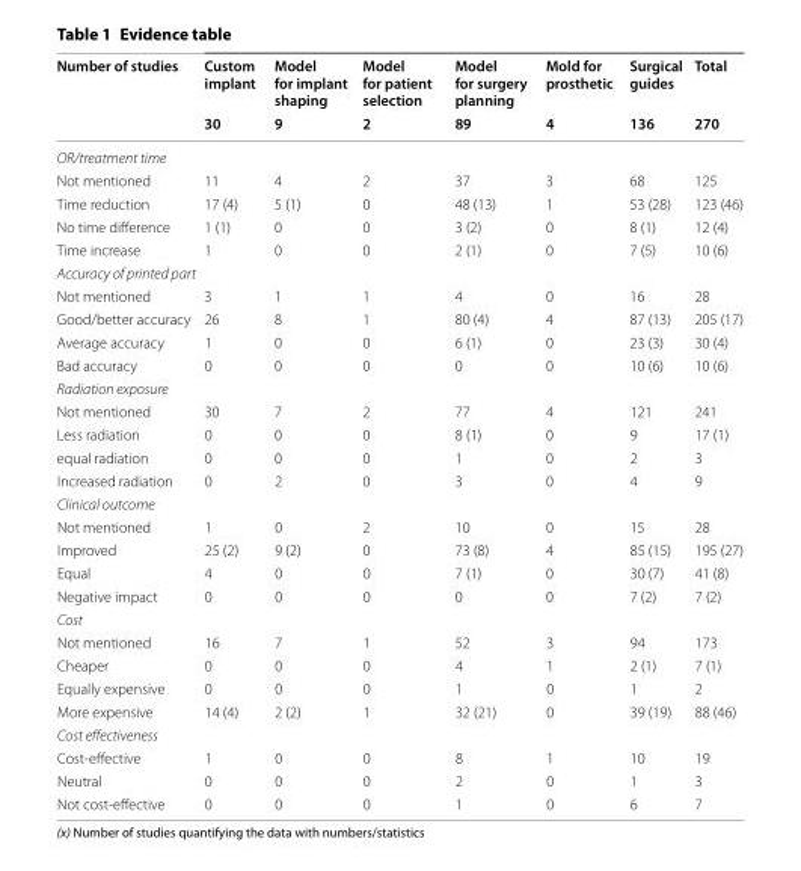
<table><thead><tr><td rowspan="2">Number of studies</td><td rowspan="2">Custom implant 30</td><td rowspan="2">Model for implant shaping 9</td><td rowspan="2">Model for patient selection 2</td><td rowspan="2">Model for surgery planning 89</td><td rowspan="2">Mold for prosthetic 4</td><td rowspan="2">Surgical guides 136</td><td rowspan="2">Total 270</td></tr><tr></tr></thead><tbody><tr><td colspan="8">OR/treatment time</td></tr><tr><td>Not mentioned</td><td>11</td><td>4</td><td>2</td><td>37</td><td>3</td><td>68</td><td>125</td></tr><tr><td>Time reduction</td><td>17 (4)</td><td>5 (1)</td><td>0</td><td>48 (13)</td><td>1</td><td>53 (28)</td><td>123 (46)</td></tr><tr><td>No time difference</td><td>1 (1)</td><td>0</td><td>0</td><td>3 (2)</td><td>0</td><td>8 (1)</td><td>12 (4)</td></tr><tr><td>Time increase</td><td>1</td><td>0</td><td>0</td><td>2 (1)</td><td>0</td><td>7 (5)</td><td>10 (6)</td></tr><tr><td colspan="8">Accuracy of printed part</td></tr><tr><td>Not mentioned</td><td>3</td><td>1</td><td>1</td><td>4</td><td>0</td><td>16</td><td>28</td></tr><tr><td>Good/better accuracy</td><td>26</td><td>8</td><td>1</td><td>80 (4)</td><td>4</td><td>87 (13)</td><td>205 (17)</td></tr><tr><td>Average accuracy</td><td>1</td><td>0</td><td>0</td><td>6 (1)</td><td>0</td><td>23 (3)</td><td>30 (4)</td></tr><tr><td>Bad accuracy</td><td>0</td><td>0</td><td>0</td><td>0</td><td>0</td><td>10 (6)</td><td>10 (6)</td></tr><tr><td colspan="8">Radiation exposure</td></tr><tr><td>Not mentioned</td><td>30</td><td>7</td><td>2</td><td>77</td><td>4</td><td>121</td><td>241</td></tr><tr><td>Less radiation</td><td>0</td><td>0</td><td>0</td><td>8 (1)</td><td>0</td><td>9</td><td>17 (1)</td></tr><tr><td>equal radiation</td><td>0</td><td>0</td><td>0</td><td>1</td><td>0</td><td>2</td><td>3</td></tr><tr><td>Increased radiation</td><td>0</td><td>2</td><td>0</td><td>3</td><td>0</td><td>4</td><td>9</td></tr><tr><td colspan="8">Clinical outcome</td></tr><tr><td>Not mentioned</td><td>1</td><td>0</td><td>2</td><td>10</td><td>0</td><td>15</td><td>28</td></tr><tr><td>Improved</td><td>25 (2)</td><td>9 (2)</td><td>0</td><td>73 (8)</td><td>4</td><td>85 (15)</td><td>195 (27)</td></tr><tr><td>Equal</td><td>4</td><td>0</td><td>0</td><td>7 (1)</td><td>0</td><td>30 (7)</td><td>41 (8)</td></tr><tr><td>Negative impact</td><td>0</td><td>0</td><td>0</td><td>0</td><td>0</td><td>7 (2)</td><td>7 (2)</td></tr><tr><td colspan="8">Cost</td></tr><tr><td>Not mentioned</td><td>16</td><td>7</td><td>1</td><td>52</td><td>3</td><td>94</td><td>173</td></tr><tr><td>Cheaper</td><td>0</td><td>0</td><td>0</td><td>4</td><td>1</td><td>2 (1)</td><td>7 (1)</td></tr><tr><td>Equally expensive</td><td>0</td><td>0</td><td>0</td><td>1</td><td>0</td><td>1</td><td>2</td></tr><tr><td>More expensive</td><td>14 (4)</td><td>2 (2)</td><td>1</td><td>32 (21)</td><td>0</td><td>39 (19)</td><td>88 (46)</td></tr><tr><td colspan="8">Cost effectiveness</td></tr><tr><td>Cost-effective</td><td>1</td><td>0</td><td>0</td><td>8</td><td>1</td><td>10</td><td>19</td></tr><tr><td>Neutral</td><td>0</td><td>0</td><td>0</td><td>2</td><td>0</td><td>1</td><td>3</td></tr><tr><td>Not cost-effective</td><td>0</td><td>0</td><td>0</td><td>1</td><td>0</td><td>6</td><td>7</td></tr></tbody></table>